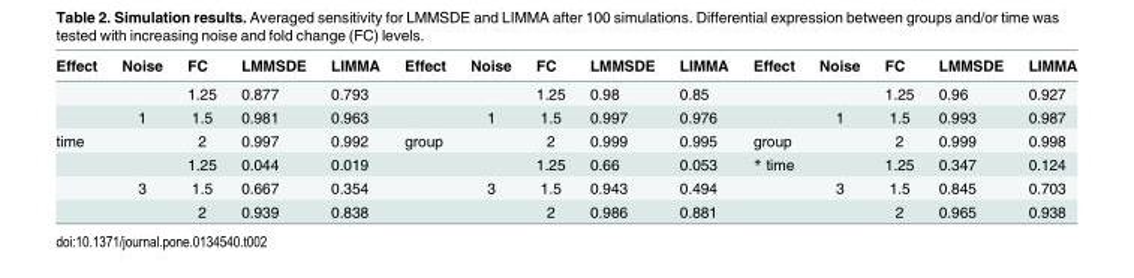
<table><thead><tr><td>Effect</td><td>Noise</td><td>FC</td><td>LMMSDE</td><td>LIMMA</td><td>Effect</td><td>Noise</td><td>FC</td><td>LMMSDE</td><td>LIMMA</td><td>Effect</td><td>Noise</td><td>FC</td><td>LMMSDE</td><td>LIMMA</td></tr></thead><tbody><tr><td></td><td></td><td>1.25</td><td>0.877</td><td>0.793</td><td></td><td></td><td>1.25</td><td>0.98</td><td>0.85</td><td></td><td></td><td>1.25</td><td>0.96</td><td>0.927</td></tr><tr><td></td><td>1</td><td>1.5</td><td>0.981</td><td>0.963</td><td></td><td>1</td><td>1.5</td><td>0.997</td><td>0.976</td><td></td><td>1</td><td>1.5</td><td>0.993</td><td>0.987</td></tr><tr><td rowspan="4">time</td><td></td><td>2</td><td>0.997</td><td>0.992</td><td>group</td><td></td><td>2</td><td>0.999</td><td>0.995</td><td>group</td><td></td><td>2</td><td>0.999</td><td>0.998</td></tr><tr><td></td><td>1.25</td><td>0.044</td><td>0.019</td><td></td><td></td><td>1.25</td><td>0.66</td><td>0.053</td><td>* time</td><td></td><td>1.25</td><td>0.347</td><td>0.124</td></tr><tr><td>3</td><td>1.5</td><td>0.667</td><td>0.354</td><td></td><td>3</td><td>1.5</td><td>0.943</td><td>0.494</td><td></td><td>3</td><td>1.5</td><td>0.845</td><td>0.703</td></tr><tr><td></td><td>2</td><td>0.939</td><td>0.838</td><td></td><td></td><td>2</td><td>0.986</td><td>0.881</td><td></td><td></td><td>2</td><td>0.965</td><td>0.938</td></tr></tbody></table>